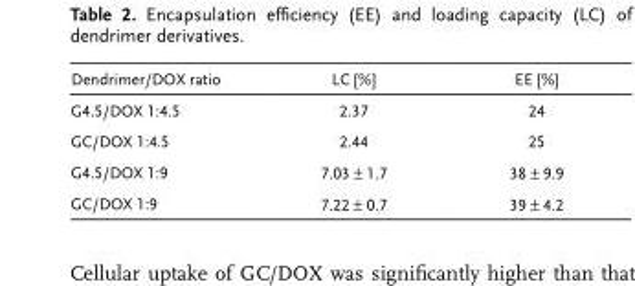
<table><thead><tr><td>Dendrimer/DOX ratio</td><td>LC [%]</td><td>EE [%]</td></tr></thead><tbody><tr><td>G4.5/DOX 1:4.5</td><td>2.37</td><td>24</td></tr><tr><td>GC/DOX 1:4.5</td><td>2.44</td><td>25</td></tr><tr><td>G4.5/DOX 1:9</td><td>7.03 ± 1.7</td><td>38 ± 9.9</td></tr><tr><td>GC/DOX 1:9</td><td>7.22 ± 0.7</td><td>39 ± 4.2</td></tr></tbody></table>